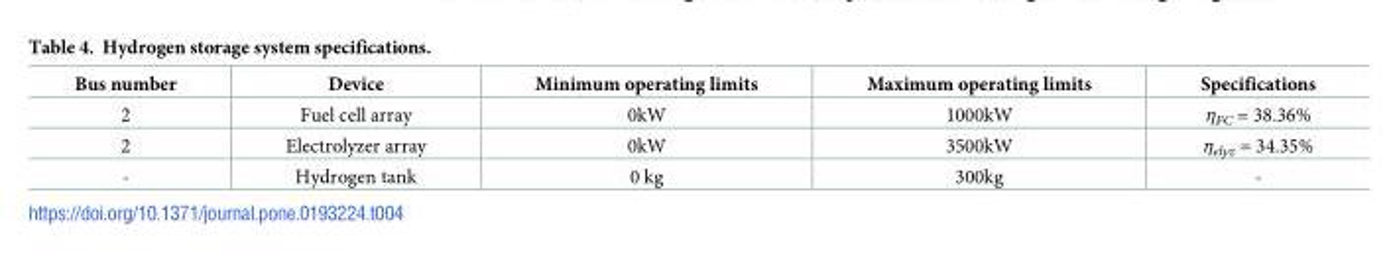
<table><thead><tr><td>Bus number</td><td>Device</td><td>Minimum operating limits</td><td>Maximum operating limits</td><td>Specifications</td></tr></thead><tbody><tr><td>2</td><td>Fuel cell array</td><td>0kW</td><td>1000kW</td><td>η<sub>FC</sub> = 38.36%</td></tr><tr><td>2</td><td>Electrolyzer array</td><td>0kW</td><td>3500kW</td><td>η<sub>elyz</sub> = 34.35%</td></tr><tr><td>-</td><td>Hydrogen tank</td><td>0 kg</td><td>300kg</td><td>-</td></tr></tbody></table>